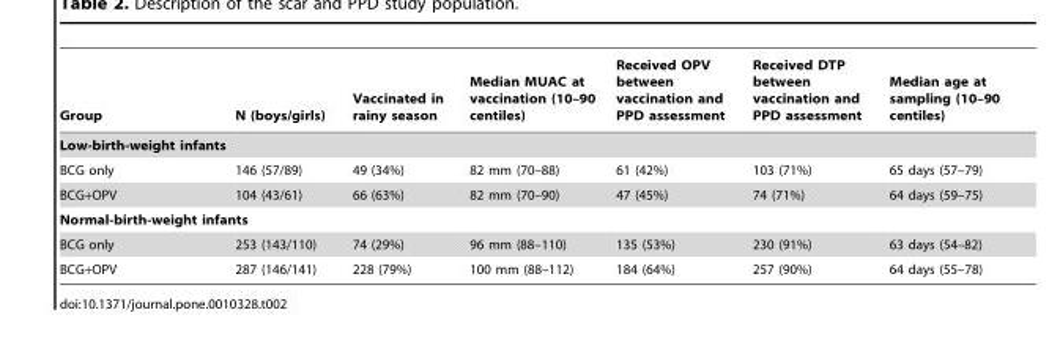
<table><thead><tr><td>Group</td><td>N (boys/girls)</td><td>Vaccinated in rainy season</td><td>Median MUAC at vaccination (10–90 centiles)</td><td>Received OPV between vaccination and PPD assessment</td><td>Received DTP between vaccination and PPD assessment</td><td>Median age at sampling (10–90 centiles)</td></tr></thead><tbody><tr><td colspan="7">Low-birth-weight infants</td></tr><tr><td>BCG only</td><td>146 (57/89)</td><td>49 (34%)</td><td>82 mm (70–88)</td><td>61 (42%)</td><td>103 (71%)</td><td>65 days (57–79)</td></tr><tr><td>BCG+OPV</td><td>104 (43/61)</td><td>66 (63%)</td><td>82 mm (70–90)</td><td>47 (45%)</td><td>74 (71%)</td><td>64 days (59–75)</td></tr><tr><td colspan="7">Normal-birth-weight infants</td></tr><tr><td>BCG only</td><td>253 (143/110)</td><td>74 (29%)</td><td>96 mm (88–110)</td><td>135 (53%)</td><td>230 (91%)</td><td>63 days (54–82)</td></tr><tr><td>BCG+OPV</td><td>287 (146/141)</td><td>228 (79%)</td><td>100 mm (88–112)</td><td>184 (64%)</td><td>257 (90%)</td><td>64 days (55–78)</td></tr></tbody></table>